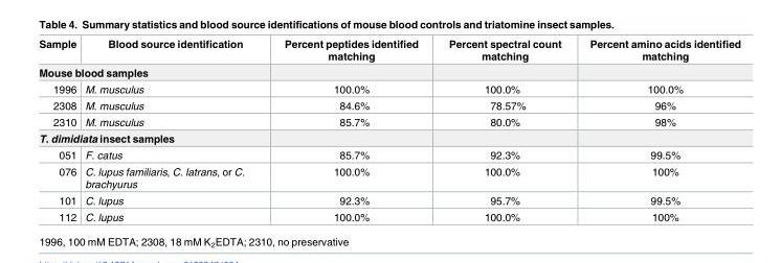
<table><thead><tr><td>Sample</td><td>Blood source identification</td><td>Percent peptides identified matching</td><td>Percent spectral count matching</td><td>Percent amino acids identified matching</td></tr></thead><tbody><tr><td colspan="5">Mouse blood samples</td></tr><tr><td>1996</td><td>M. musculus</td><td>100.0%</td><td>100.0%</td><td>100.0%</td></tr><tr><td>2308</td><td>M. musculus</td><td>84.6%</td><td>78.57%</td><td>96%</td></tr><tr><td>2310</td><td>M. musculus</td><td>85.7%</td><td>80.0%</td><td>98%</td></tr><tr><td colspan="5">T. dimidiata insect samples</td></tr><tr><td>051</td><td>F. catus</td><td>85.7%</td><td>92.3%</td><td>99.5%</td></tr><tr><td>076</td><td>C. lupus familiaris, C. latrans, or C. brachyurus</td><td>100.0%</td><td>100.0%</td><td>100%</td></tr><tr><td>101</td><td>C. lupus</td><td>92.3%</td><td>95.7%</td><td>99.5%</td></tr><tr><td>112</td><td>C. lupus</td><td>100.0%</td><td>100.0%</td><td>100%</td></tr></tbody></table>